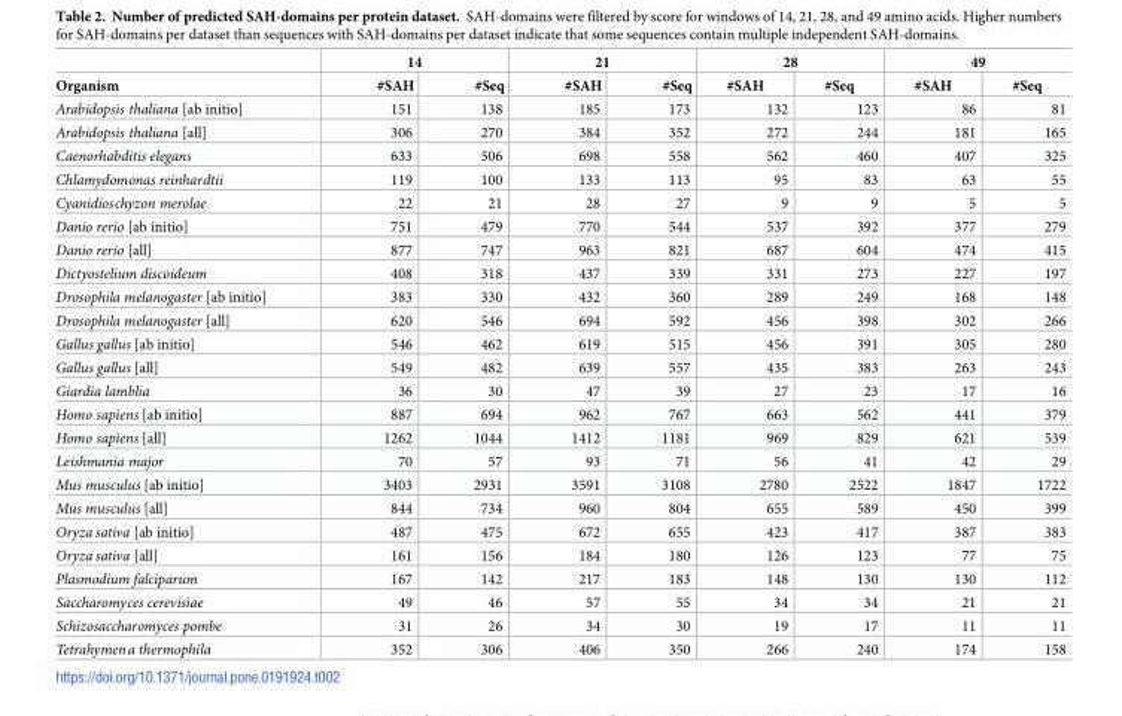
<table><thead><tr><td rowspan="2">Organism</td><td colspan="2">14</td><td colspan="2">21</td><td colspan="2">28</td><td colspan="2">49</td></tr><tr><td>#SAH</td><td>#Seq</td><td>#SAH</td><td>#Seq</td><td>#SAH</td><td>#Seq</td><td>#SAH</td><td>#Seq</td></tr></thead><tbody><tr><td>Arabidopsis thaliana [ab initio]</td><td>151</td><td>138</td><td>185</td><td>173</td><td>132</td><td>123</td><td>86</td><td>81</td></tr><tr><td>Arabidopsis thaliana [all]</td><td>306</td><td>270</td><td>384</td><td>352</td><td>272</td><td>244</td><td>181</td><td>165</td></tr><tr><td>Caenorhabditis elegans</td><td>633</td><td>506</td><td>698</td><td>558</td><td>562</td><td>460</td><td>407</td><td>325</td></tr><tr><td>Chlamydomonas reinhardtii</td><td>119</td><td>100</td><td>133</td><td>113</td><td>95</td><td>83</td><td>63</td><td>55</td></tr><tr><td>Cyanidioschyzon merolae</td><td>22</td><td>21</td><td>28</td><td>27</td><td>9</td><td>9</td><td>5</td><td>5</td></tr><tr><td>Danio rerio [ab initio]</td><td>751</td><td>479</td><td>770</td><td>544</td><td>537</td><td>392</td><td>377</td><td>279</td></tr><tr><td>Danio rerio [all]</td><td>877</td><td>747</td><td>963</td><td>821</td><td>687</td><td>604</td><td>474</td><td>415</td></tr><tr><td>Dictyostelium discoideum</td><td>408</td><td>318</td><td>437</td><td>339</td><td>331</td><td>273</td><td>227</td><td>197</td></tr><tr><td>Drosophila melanogaster [ab initio]</td><td>383</td><td>330</td><td>432</td><td>360</td><td>289</td><td>249</td><td>168</td><td>148</td></tr><tr><td>Drosophila melanogaster [all]</td><td>620</td><td>546</td><td>694</td><td>592</td><td>456</td><td>398</td><td>302</td><td>266</td></tr><tr><td>Gallus gallus [ab initio]</td><td>546</td><td>462</td><td>619</td><td>515</td><td>456</td><td>391</td><td>305</td><td>280</td></tr><tr><td>Gallus gallus [all]</td><td>549</td><td>482</td><td>639</td><td>557</td><td>435</td><td>383</td><td>263</td><td>243</td></tr><tr><td>Giardia lamblia</td><td>36</td><td>30</td><td>47</td><td>39</td><td>27</td><td>23</td><td>17</td><td>16</td></tr><tr><td>Homo sapiens [ab initio]</td><td>887</td><td>694</td><td>962</td><td>767</td><td>663</td><td>562</td><td>441</td><td>379</td></tr><tr><td>Homo sapiens [all]</td><td>1262</td><td>1044</td><td>1412</td><td>1181</td><td>969</td><td>829</td><td>621</td><td>539</td></tr><tr><td>Leishmania major</td><td>70</td><td>57</td><td>93</td><td>71</td><td>56</td><td>41</td><td>42</td><td>29</td></tr><tr><td>Mus musculus [ab initio]</td><td>3403</td><td>2931</td><td>3591</td><td>3108</td><td>2780</td><td>2522</td><td>1847</td><td>1722</td></tr><tr><td>Mus musculus [all]</td><td>844</td><td>734</td><td>960</td><td>804</td><td>655</td><td>589</td><td>450</td><td>399</td></tr><tr><td>Oryza sativa [ab initio]</td><td>487</td><td>475</td><td>672</td><td>655</td><td>423</td><td>417</td><td>387</td><td>383</td></tr><tr><td>Oryza sativa [all]</td><td>161</td><td>156</td><td>184</td><td>180</td><td>126</td><td>123</td><td>77</td><td>75</td></tr><tr><td>Plasmodium falciparum</td><td>167</td><td>142</td><td>217</td><td>183</td><td>148</td><td>130</td><td>130</td><td>112</td></tr><tr><td>Saccharomyces cerevisiae</td><td>49</td><td>46</td><td>57</td><td>55</td><td>34</td><td>34</td><td>21</td><td>21</td></tr><tr><td>Schizosaccharomyces pombe</td><td>31</td><td>26</td><td>34</td><td>30</td><td>19</td><td>17</td><td>11</td><td>11</td></tr><tr><td>Tetrahymena thermophila</td><td>352</td><td>306</td><td>406</td><td>350</td><td>266</td><td>240</td><td>174</td><td>158</td></tr></tbody></table>